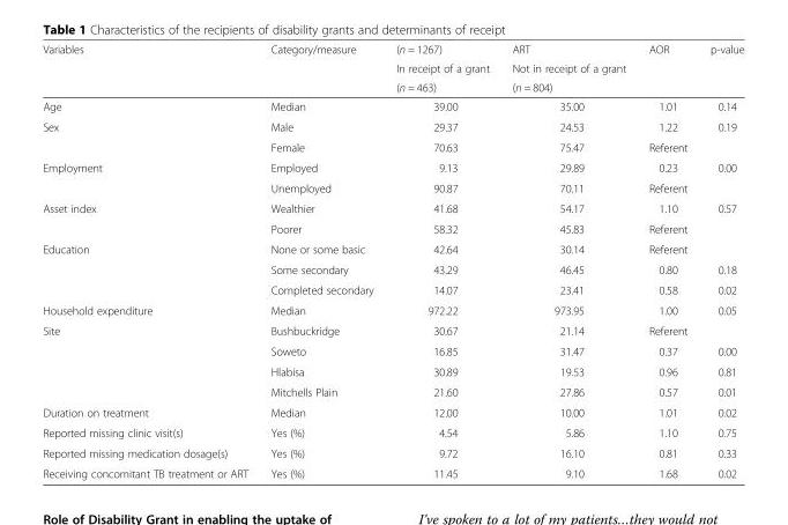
<table><thead><tr><td rowspan="3">Variables</td><td rowspan="3">Category/measure</td><td rowspan="3">(n = 1267) In receipt of a grant (n = 463)</td><td rowspan="3">ART Not in receipt of a grant (n = 804)</td><td rowspan="3">AOR</td><td rowspan="3">p-value</td></tr><tr></tr><tr></tr></thead><tbody><tr><td>Age</td><td>Median</td><td>39.00</td><td>35.00</td><td>1.01</td><td>0.14</td></tr><tr><td rowspan="2">Sex</td><td>Male</td><td>29.37</td><td>24.53</td><td>1.22</td><td>0.19</td></tr><tr><td>Female</td><td>70.63</td><td>75.47</td><td>Referent</td><td></td></tr><tr><td rowspan="2">Employment</td><td>Employed</td><td>9.13</td><td>29.89</td><td>0.23</td><td>0.00</td></tr><tr><td>Unemployed</td><td>90.87</td><td>70.11</td><td>Referent</td><td></td></tr><tr><td rowspan="2">Asset index</td><td>Wealthier</td><td>41.68</td><td>54.17</td><td>1.10</td><td>0.57</td></tr><tr><td>Poorer</td><td>58.32</td><td>45.83</td><td>Referent</td><td></td></tr><tr><td rowspan="3">Education</td><td>None or some basic</td><td>42.64</td><td>30.14</td><td>Referent</td><td></td></tr><tr><td>Some secondary</td><td>43.29</td><td>46.45</td><td>0.80</td><td>0.18</td></tr><tr><td>Completed secondary</td><td>14.07</td><td>23.41</td><td>0.58</td><td>0.02</td></tr><tr><td>Household expenditure</td><td>Median</td><td>972.22</td><td>973.95</td><td>1.00</td><td>0.05</td></tr><tr><td rowspan="4">Site</td><td>Bushbuckridge</td><td>30.67</td><td>21.14</td><td>Referent</td><td></td></tr><tr><td>Soweto</td><td>16.85</td><td>31.47</td><td>0.37</td><td>0.00</td></tr><tr><td>Hlabisa</td><td>30.89</td><td>19.53</td><td>0.96</td><td>0.81</td></tr><tr><td>Mitchells Plain</td><td>21.60</td><td>27.86</td><td>0.57</td><td>0.01</td></tr><tr><td>Duration on treatment</td><td>Median</td><td>12.00</td><td>10.00</td><td>1.01</td><td>0.02</td></tr><tr><td>Reported missing clinic visit(s)</td><td>Yes (%)</td><td>4.54</td><td>5.86</td><td>1.10</td><td>0.75</td></tr><tr><td>Reported missing medication dosage(s)</td><td>Yes (%)</td><td>9.72</td><td>16.10</td><td>0.81</td><td>0.33</td></tr><tr><td>Receiving concomitant TB treatment or ART</td><td>Yes (%)</td><td>11.45</td><td>9.10</td><td>1.68</td><td>0.02</td></tr></tbody></table>